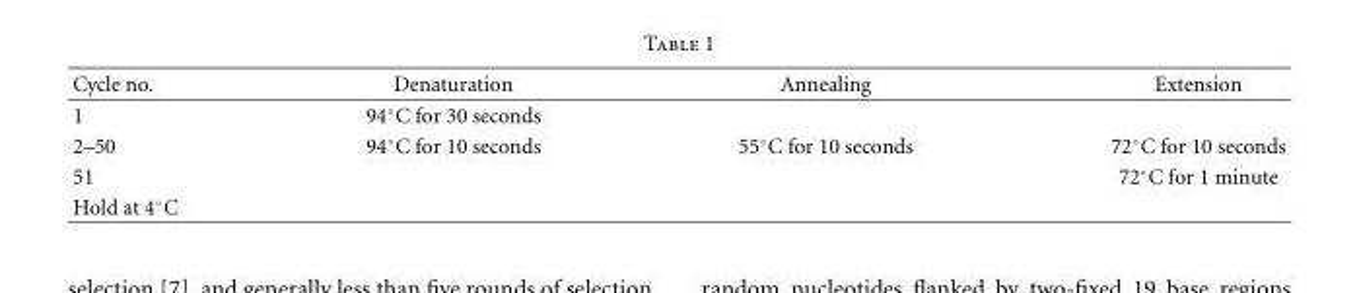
<table><thead><tr><td>Cycle no.</td><td>Denaturation</td><td>Annealing</td><td>Extension</td></tr></thead><tbody><tr><td>1</td><td>94◦C for 30 seconds</td><td></td><td></td></tr><tr><td>2–50</td><td>94◦C for 10 seconds</td><td>55◦C for 10 seconds</td><td>72◦C for 10 seconds</td></tr><tr><td>51</td><td></td><td></td><td>72◦C for 1 minute</td></tr><tr><td>Hold at 4◦C</td><td></td><td></td><td></td></tr></tbody></table>